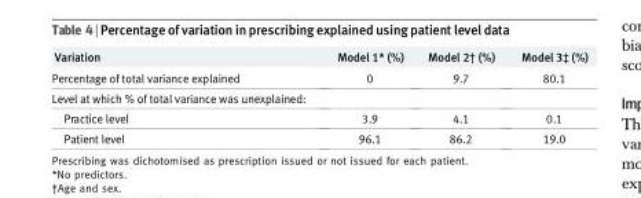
<table><thead><tr><td>Variation</td><td>Model 1* (%)</td><td>Model 2† (%)</td><td>Model 3‡ (%)</td></tr></thead><tbody><tr><td>Percentage of total variance explained</td><td>0</td><td>9.7</td><td>80.1</td></tr><tr><td colspan="4">Level at which % of total variance was unexplained:</td></tr><tr><td>Practice level</td><td>3.9</td><td>4.1</td><td>0.1</td></tr><tr><td>Patient level</td><td>96.1</td><td>86.2</td><td>19.0</td></tr></tbody></table>